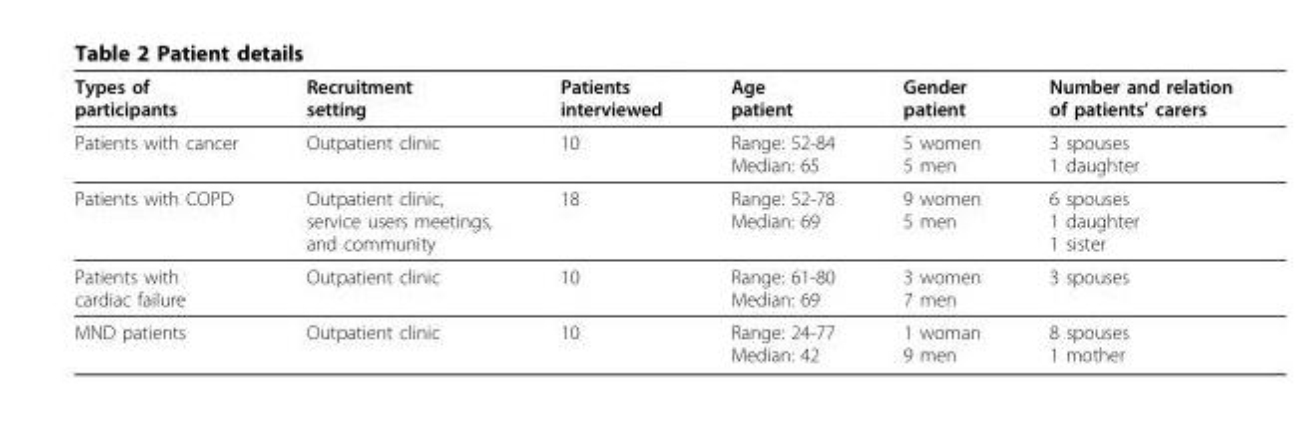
<table><thead><tr><td>Types of participants</td><td>Recruitment setting</td><td>Patients interviewed</td><td>Age patient</td><td>Gender patient</td><td>Number and relation of patients’ carers</td></tr></thead><tbody><tr><td>Patients with cancer</td><td>Outpatient clinic</td><td>10</td><td>Range: 52-84 Median: 65</td><td>5 women 5 men</td><td>3 spouses 1 daughter</td></tr><tr><td>Patients with COPD</td><td>Outpatient clinic, service users meetings, and community</td><td>18</td><td>Range: 52-78 Median: 69</td><td>9 women 5 men</td><td>6 spouses 1 daughter 1 sister</td></tr><tr><td>Patients with cardiac failure</td><td>Outpatient clinic</td><td>10</td><td>Range: 61-80 Median: 69</td><td>3 women 7 men</td><td>3 spouses</td></tr><tr><td>MND patients</td><td>Outpatient clinic</td><td>10</td><td>Range: 24-77 Median: 42</td><td>1 woman 9 men</td><td>8 spouses 1 mother</td></tr></tbody></table>